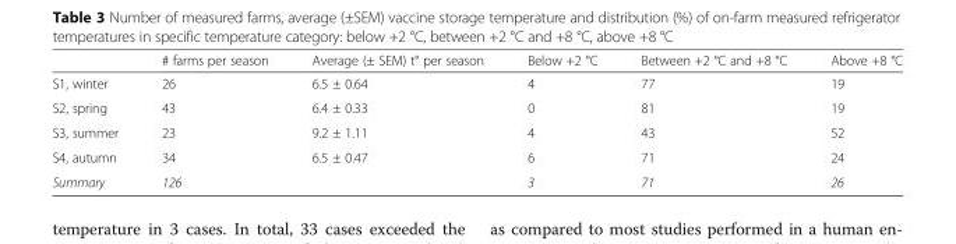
<table><thead><tr><td></td><td># farms per season</td><td>Average (± SEM) t° per season</td><td>Below +2 °C</td><td>Between +2 °C and +8 °C</td><td>Above +8 °C</td></tr></thead><tbody><tr><td>S1, winter</td><td>26</td><td>6.5 ± 0.64</td><td>4</td><td>77</td><td>19</td></tr><tr><td>S2, spring</td><td>43</td><td>6.4 ± 0.33</td><td>0</td><td>81</td><td>19</td></tr><tr><td>S3, summer</td><td>23</td><td>9.2 ± 1.11</td><td>4</td><td>43</td><td>52</td></tr><tr><td>S4, autumn</td><td>34</td><td>6.5 ± 0.47</td><td>6</td><td>71</td><td>24</td></tr><tr><td>Summary</td><td>126</td><td></td><td>3</td><td>71</td><td>26</td></tr></tbody></table>